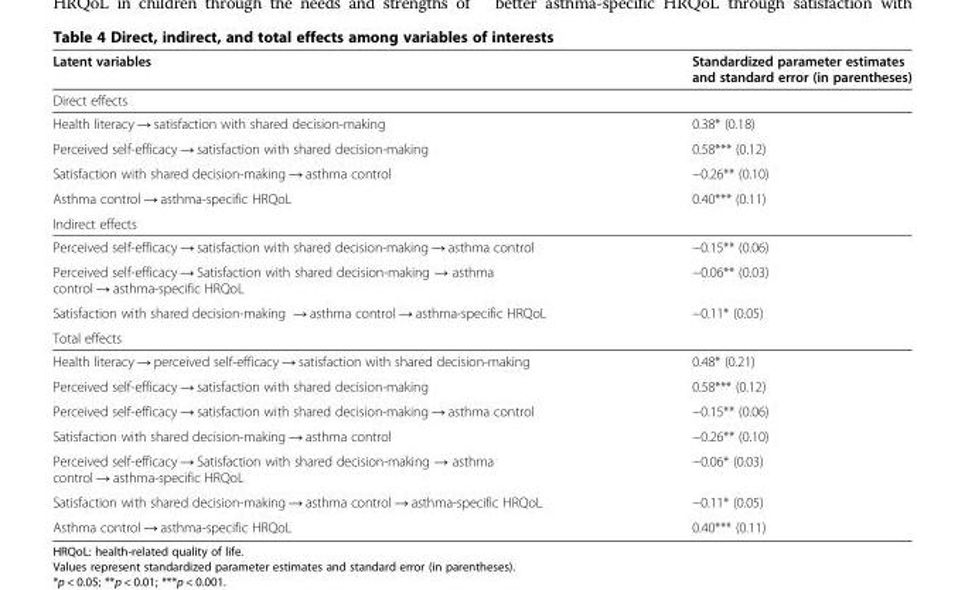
<table><thead><tr><td>Latent variables</td><td>Standardized parameter estimates and standard error (in parentheses)</td></tr></thead><tbody><tr><td colspan="2">Direct effects</td></tr><tr><td>Health literacy → satisfaction with shared decision-making</td><td>0.38* (0.18)</td></tr><tr><td>Perceived self-efficacy → satisfaction with shared decision-making</td><td>0.58*** (0.12)</td></tr><tr><td>Satisfaction with shared decision-making → asthma control</td><td>−0.26** (0.10)</td></tr><tr><td>Asthma control → asthma-specific HRQoL</td><td>0.40*** (0.11)</td></tr><tr><td colspan="2">Indirect effects</td></tr><tr><td>Perceived self-efficacy → satisfaction with shared decision-making → asthma control</td><td>−0.15** (0.06)</td></tr><tr><td>Perceived self-efficacy → Satisfaction with shared decision-making → asthma control → asthma-specific HRQoL</td><td>−0.06** (0.03)</td></tr><tr><td>Satisfaction with shared decision-making → asthma control → asthma-specific HRQoL</td><td>−0.11* (0.05)</td></tr><tr><td colspan="2">Total effects</td></tr><tr><td>Health literacy → perceived self-efficacy → satisfaction with shared decision-making</td><td>0.48* (0.21)</td></tr><tr><td>Perceived self-efficacy → satisfaction with shared decision-making</td><td>0.58*** (0.12)</td></tr><tr><td>Perceived self-efficacy → satisfaction with shared decision-making → asthma control</td><td>−0.15** (0.06)</td></tr><tr><td>Satisfaction with shared decision-making → asthma control</td><td>−0.26** (0.10)</td></tr><tr><td>Perceived self-efficacy → Satisfaction with shared decision-making → asthma control → asthma-specific HRQoL</td><td>−0.06* (0.03)</td></tr><tr><td>Satisfaction with shared decision-making → asthma control → asthma-specific HRQoL</td><td>−0.11* (0.05)</td></tr><tr><td>Asthma control → asthma-specific HRQoL</td><td>0.40*** (0.11)</td></tr></tbody></table>